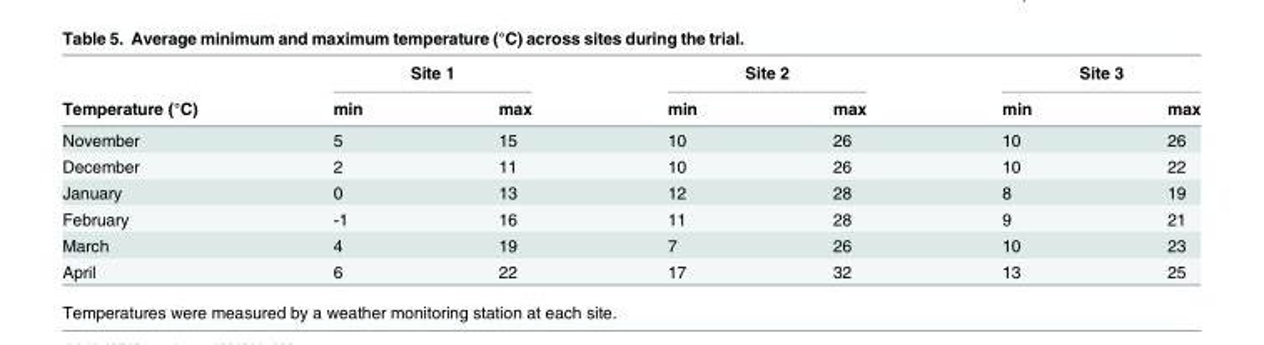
<table><thead><tr><td rowspan="2">Temperature (°C)</td><td colspan="2">Site 1</td><td colspan="2">Site 2</td><td colspan="2">Site 3</td></tr><tr><td>min</td><td>max</td><td>min</td><td>max</td><td>min</td><td>max</td></tr></thead><tbody><tr><td>November</td><td>5</td><td>15</td><td>10</td><td>26</td><td>10</td><td>26</td></tr><tr><td>December</td><td>2</td><td>11</td><td>10</td><td>26</td><td>10</td><td>22</td></tr><tr><td>January</td><td>0</td><td>13</td><td>12</td><td>28</td><td>8</td><td>19</td></tr><tr><td>February</td><td>-1</td><td>16</td><td>11</td><td>28</td><td>9</td><td>21</td></tr><tr><td>March</td><td>4</td><td>19</td><td>7</td><td>26</td><td>10</td><td>23</td></tr><tr><td>April</td><td>6</td><td>22</td><td>17</td><td>32</td><td>13</td><td>25</td></tr></tbody></table>